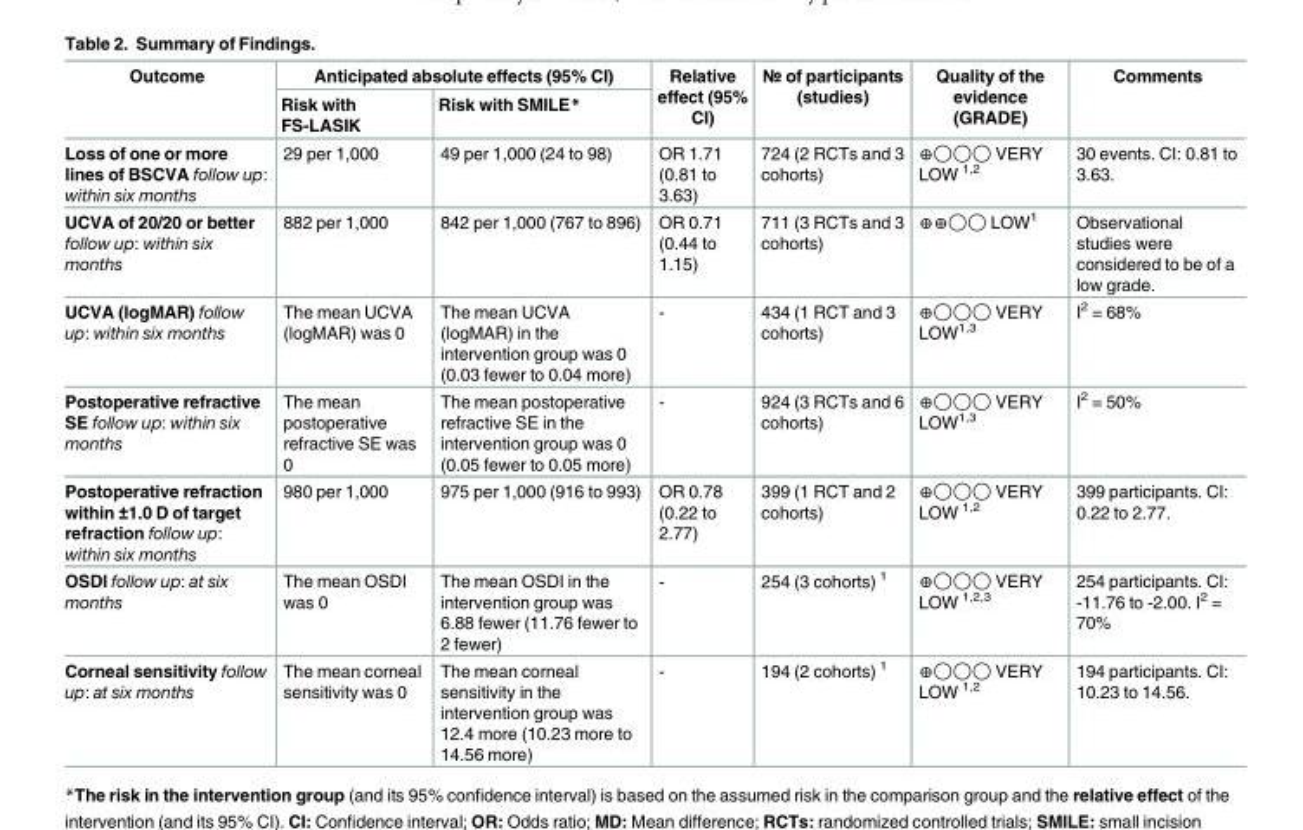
<table><thead><tr><td rowspan="2">Outcome</td><td colspan="2">Anticipated absolute effects (95% CI)</td><td rowspan="2">Relative effect (95% CI)</td><td rowspan="2">№ of participants (studies)</td><td rowspan="2">Quality of the evidence (GRADE)</td><td rowspan="2">Comments</td></tr><tr><td>Risk with FS-LASIK</td><td>Risk with SMILE*</td></tr></thead><tbody><tr><td>Loss of one or more lines of BSCVA follow up: within six months</td><td>29 per 1,000</td><td>49 per 1,000 (24 to 98)</td><td>OR 1.71 (0.81 to 3.63)</td><td>724 (2 RCTs and 3 cohorts)</td><td>⊕◯◯◯ VERY LOW 1,2</td><td>30 events. CI: 0.81 to 3.63.</td></tr><tr><td>UCVA of 20/20 or better follow up: within six months</td><td>882 per 1,000</td><td>842 per 1,000 (767 to 896)</td><td>OR 0.71 (0.44 to 1.15)</td><td>711 (3 RCTs and 3 cohorts)</td><td>⊕⊕◯◯ LOW1</td><td>Observational studies were considered to be of a low grade.</td></tr><tr><td>UCVA (logMAR) follow up: within six months</td><td>The mean UCVA (logMAR) was 0</td><td>The mean UCVA (logMAR) in the intervention group was 0 (0.03 fewer to 0.04 more)</td><td>-</td><td>434 (1 RCT and 3 cohorts)</td><td>⊕◯◯◯ VERY LOW1,3</td><td>I<sup>2</sup> = 68%</td></tr><tr><td>Postoperative refractive SE follow up: within six months</td><td>The mean postoperative refractive SE was 0</td><td>The mean postoperative refractive SE in the intervention group was 0 (0.05 fewer to 0.05 more)</td><td>-</td><td>924 (3 RCTs and 6 cohorts)</td><td>⊕◯◯◯ VERY LOW1,3</td><td>I<sup>2</sup> = 50%</td></tr><tr><td>Postoperative refraction within ±1.0 D of target refraction follow up: within six months</td><td>980 per 1,000</td><td>975 per 1,000 (916 to 993)</td><td>OR 0.78 (0.22 to 2.77)</td><td>399 (1 RCT and 2 cohorts)</td><td>⊕◯◯◯ VERY LOW 1,2</td><td>399 participants. CI: 0.22 to 2.77.</td></tr><tr><td>OSDI follow up: at six months</td><td>The mean OSDI was 0</td><td>The mean OSDI in the intervention group was 6.88 fewer (11.76 fewer to 2 fewer)</td><td>-</td><td>254 (3 cohorts) <sup>1</sup></td><td>⊕◯◯◯ VERY LOW 1,2,3</td><td>254 participants. CI: -11.76 to -2.00. I<sup>2</sup> = 70%</td></tr><tr><td>Corneal sensitivity follow up: at six months</td><td>The mean corneal sensitivity was 0</td><td>The mean corneal sensitivity in the intervention group was 12.4 more (10.23 more to 14.56 more)</td><td>-</td><td>194 (2 cohorts) <sup>1</sup></td><td>⊕◯◯◯ VERY LOW 1,2</td><td>194 participants. CI: 10.23 to 14.56.</td></tr></tbody></table>